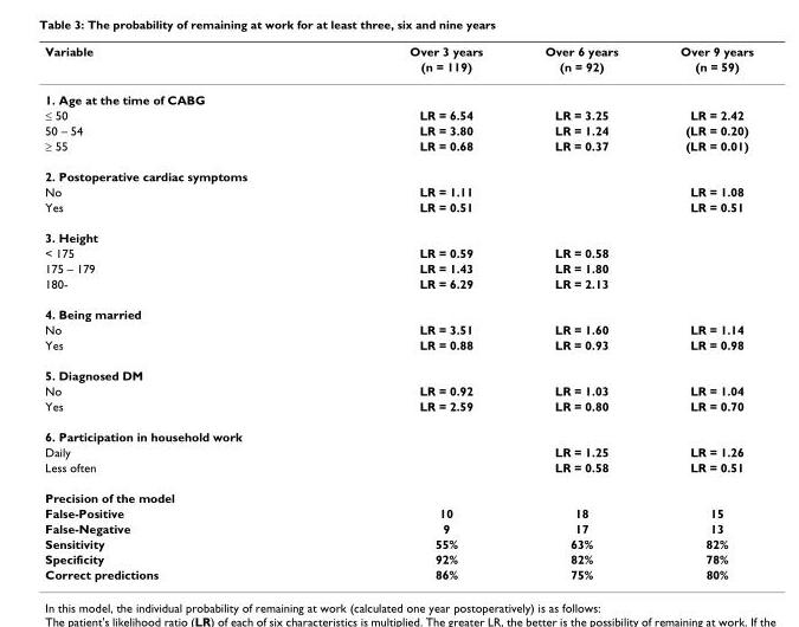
<table><thead><tr><td rowspan="2">Variable</td><td rowspan="2">Over 3 years (n = 119)</td><td rowspan="2">Over 6 years (n = 92)</td><td rowspan="2">Over 9 years (n = 59)</td></tr><tr></tr></thead><tbody><tr><td colspan="4">1. Age at the time of CABG</td></tr><tr><td>≤ 50</td><td>LR = 6.54</td><td>LR = 3.25</td><td>LR = 2.42</td></tr><tr><td>50 – 54</td><td>LR = 3.80</td><td>LR = 1.24</td><td>(LR = 0.20)</td></tr><tr><td>≥ 55</td><td>LR = 0.68</td><td>LR = 0.37</td><td>(LR = 0.01)</td></tr><tr><td colspan="4">2. Postoperative cardiac symptoms</td></tr><tr><td>No</td><td>LR = 1.11</td><td></td><td>LR = 1.08</td></tr><tr><td>Yes</td><td>LR = 0.51</td><td></td><td>LR = 0.51</td></tr><tr><td colspan="4">3. Height</td></tr><tr><td>&lt; 175</td><td>LR = 0.59</td><td>LR = 0.58</td><td></td></tr><tr><td>175 – 179</td><td>LR = 1.43</td><td>LR = 1.80</td><td></td></tr><tr><td>180-</td><td>LR = 6.29</td><td>LR = 2.13</td><td></td></tr><tr><td colspan="4">4. Being married</td></tr><tr><td>No</td><td>LR = 3.51</td><td>LR = 1.60</td><td>LR = 1.14</td></tr><tr><td>Yes</td><td>LR = 0.88</td><td>LR = 0.93</td><td>LR = 0.98</td></tr><tr><td colspan="4">5. Diagnosed DM</td></tr><tr><td>No</td><td>LR = 0.92</td><td>LR = 1.03</td><td>LR = 1.04</td></tr><tr><td>Yes</td><td>LR = 2.59</td><td>LR = 0.80</td><td>LR = 0.70</td></tr><tr><td colspan="4">6. Participation in household work</td></tr><tr><td>Daily</td><td></td><td>LR = 1.25</td><td>LR = 1.26</td></tr><tr><td>Less often</td><td></td><td>LR = 0.58</td><td>LR = 0.51</td></tr><tr><td colspan="4">Precision of the model</td></tr><tr><td>False-Positive</td><td>10</td><td>18</td><td>15</td></tr><tr><td>False-Negative</td><td>9</td><td>17</td><td>13</td></tr><tr><td>Sensitivity</td><td>55%</td><td>63%</td><td>82%</td></tr><tr><td>Specificity</td><td>92%</td><td>82%</td><td>78%</td></tr><tr><td>Correct predictions</td><td>86%</td><td>75%</td><td>80%</td></tr></tbody></table>